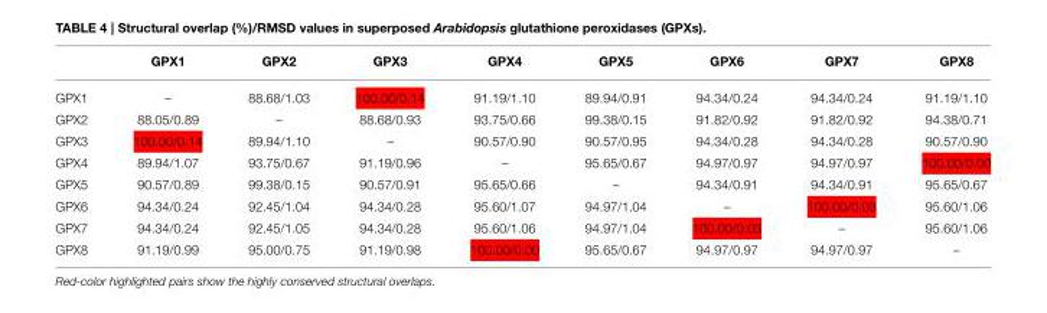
<table><thead><tr><td></td><td>GPX1</td><td>GPX2</td><td>GPX3</td><td>GPX4</td><td>GPX5</td><td>GPX6</td><td>GPX7</td><td>GPX8</td></tr></thead><tbody><tr><td>GPX1</td><td>–</td><td>88.68/1.03</td><td>100.00/0.14</td><td>91.19/1.10</td><td>89.94/0.91</td><td>94.34/0.24</td><td>94.34/0.24</td><td>91.19/1.10</td></tr><tr><td>GPX2</td><td>88.05/0.89</td><td>–</td><td>88.68/0.93</td><td>93.75/0.66</td><td>99.38/0.15</td><td>91.82/0.92</td><td>91.82/0.92</td><td>94.38/0.71</td></tr><tr><td>GPX3</td><td>100.00/0.14</td><td>89.94/1.10</td><td>–</td><td>90.57/0.90</td><td>90.57/0.95</td><td>94.34/0.28</td><td>94.34/0.28</td><td>90.57/0.90</td></tr><tr><td>GPX4</td><td>89.94/1.07</td><td>93.75/0.67</td><td>91.19/0.96</td><td>–</td><td>95.65/0.67</td><td>94.97/0.97</td><td>94.97/0.97</td><td>100.00/0.00</td></tr><tr><td>GPX5</td><td>90.57/0.89</td><td>99.38/0.15</td><td>90.57/0.91</td><td>95.65/0.66</td><td>–</td><td>94.34/0.91</td><td>94.34/0.91</td><td>95.65/0.67</td></tr><tr><td>GPX6</td><td>94.34/0.24</td><td>92.45/1.04</td><td>94.34/0.28</td><td>95.60/1.07</td><td>94.97/1.04</td><td>–</td><td>100.00/0.03</td><td>95.60/1.06</td></tr><tr><td>GPX7</td><td>94.34/0.24</td><td>92.45/1.05</td><td>94.34/0.28</td><td>95.60/1.06</td><td>94.97/1.04</td><td>100.00/0.03</td><td>–</td><td>95.60/1.06</td></tr><tr><td>GPX8</td><td>91.19/0.99</td><td>95.00/0.75</td><td>91.19/0.98</td><td>100.00/0.00</td><td>95.65/0.67</td><td>94.97/0.97</td><td>94.97/0.97</td><td>–</td></tr></tbody></table>